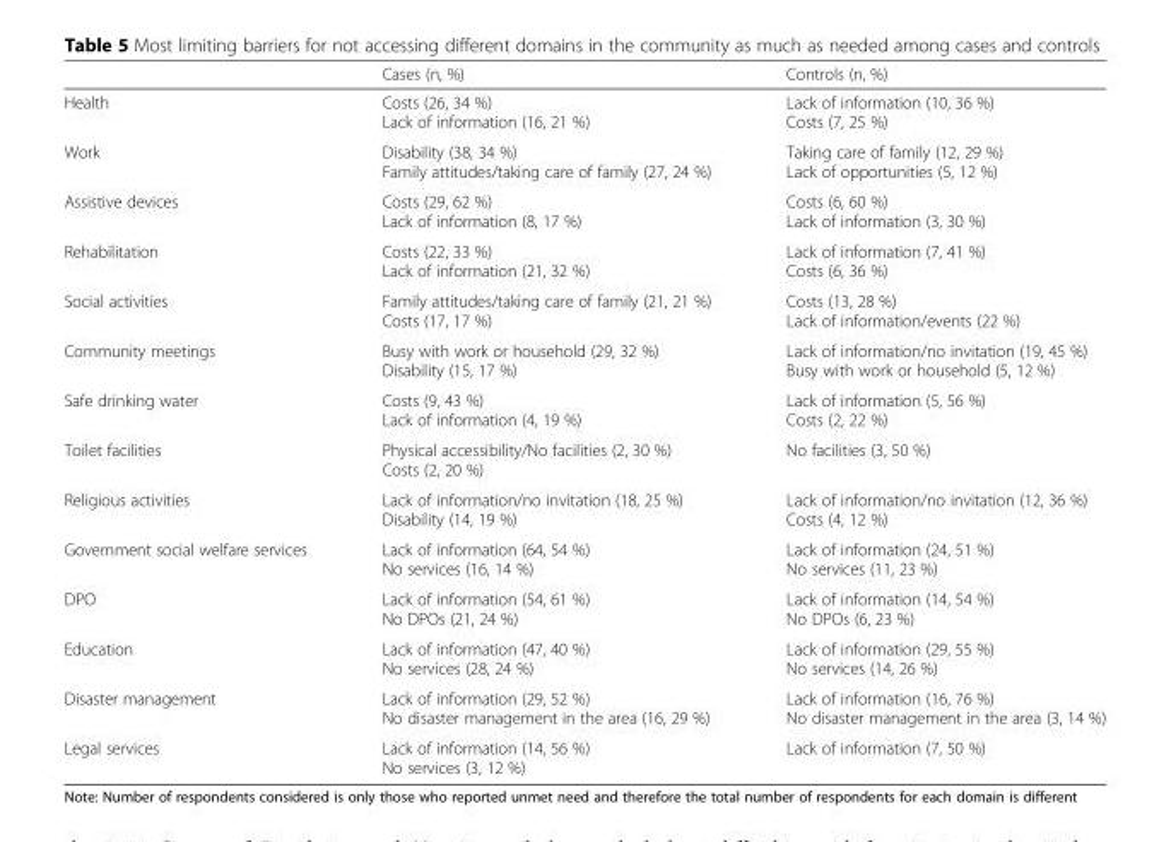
<table><thead><tr><td></td><td>Cases (n, %)</td><td>Controls (n, %)</td></tr></thead><tbody><tr><td>Health</td><td>Costs (26, 34 %) Lack of information (16, 21 %)</td><td>Lack of information (10, 36 %) Costs (7, 25 %)</td></tr><tr><td>Work</td><td>Disability (38, 34 %) Family attitudes/taking care of family (27, 24 %)</td><td>Taking care of family (12, 29 %) Lack of opportunities (5, 12 %)</td></tr><tr><td>Assistive devices</td><td>Costs (29, 62 %) Lack of information (8, 17 %)</td><td>Costs (6, 60 %) Lack of information (3, 30 %)</td></tr><tr><td>Rehabilitation</td><td>Costs (22, 33 %) Lack of information (21, 32 %)</td><td>Lack of information (7, 41 %) Costs (6, 36 %)</td></tr><tr><td>Social activities</td><td>Family attitudes/taking care of family (21, 21 %) Costs (17, 17 %)</td><td>Costs (13, 28 %) Lack of information/events (22 %)</td></tr><tr><td>Community meetings</td><td>Busy with work or household (29, 32 %) Disability (15, 17 %)</td><td>Lack of information/no invitation (19, 45 %) Busy with work or household (5, 12 %)</td></tr><tr><td>Safe drinking water</td><td>Costs (9, 43 %) Lack of information (4, 19 %)</td><td>Lack of information (5, 56 %) Costs (2, 22 %)</td></tr><tr><td>Toilet facilities</td><td>Physical accessibility/No facilities (2, 30 %) Costs (2, 20 %)</td><td>No facilities (3, 50 %)</td></tr><tr><td>Religious activities</td><td>Lack of information/no invitation (18, 25 %) Disability (14, 19 %)</td><td>Lack of information/no invitation (12, 36 %) Costs (4, 12 %)</td></tr><tr><td>Government social welfare services</td><td>Lack of information (64, 54 %) No services (16, 14 %)</td><td>Lack of information (24, 51 %) No services (11, 23 %)</td></tr><tr><td>DPO</td><td>Lack of information (54, 61 %) No DPOs (21, 24 %)</td><td>Lack of information (14, 54 %) No DPOs (6, 23 %)</td></tr><tr><td>Education</td><td>Lack of information (47, 40 %) No services (28, 24 %)</td><td>Lack of information (29, 55 %) No services (14, 26 %)</td></tr><tr><td>Disaster management</td><td>Lack of information (29, 52 %) No disaster management in the area (16, 29 %)</td><td>Lack of information (16, 76 %) No disaster management in the area (3, 14 %)</td></tr><tr><td>Legal services</td><td>Lack of information (14, 56 %) No services (3, 12 %)</td><td>Lack of information (7, 50 %)</td></tr></tbody></table>